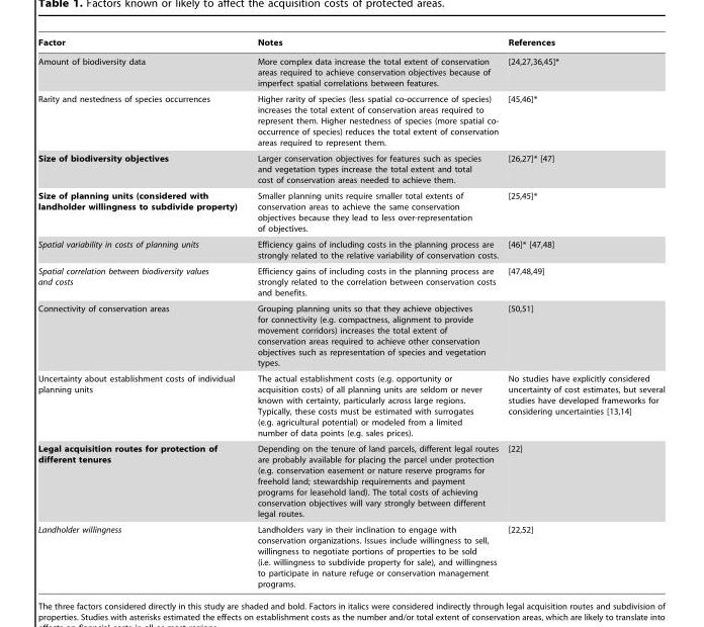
<table><thead><tr><td>Factor</td><td>Notes</td><td>References</td></tr></thead><tbody><tr><td>Amount of biodiversity data</td><td>More complex data increase the total extent of conservation areas required to achieve conservation objectives because of imperfect spatial correlations between features.</td><td>[24,27,36,45]*</td></tr><tr><td>Rarity and nestedness of species occurrences</td><td>Higher rarity of species (less spatial co-occurrence of species) increases the total extent of conservation areas required to represent them. Higher nestedness of species (more spatial co- occurrence of species) reduces the total extent of conservation areas required to represent them.</td><td>[45,46]*</td></tr><tr><td>Size of biodiversity objectives</td><td>Larger conservation objectives for features such as species and vegetation types increase the total extent and total cost of conservation areas needed to achieve them.</td><td>[26,27]* [47]</td></tr><tr><td>Size of planning units (considered with landholder willingness to subdivide property)</td><td>Smaller planning units require smaller total extents of conservation areas to achieve the same conservation objectives because they lead to less over-representation of objectives.</td><td>[25,45]*</td></tr><tr><td>Spatial variability in costs of planning units</td><td>Efficiency gains of including costs in the planning process are strongly related to the relative variability of conservation costs.</td><td>[46]* [47,48]</td></tr><tr><td>Spatial correlation between biodiversity values and costs</td><td>Efficiency gains of including costs in the planning process are strongly related to the correlation between conservation costs and benefits.</td><td>[47,48,49]</td></tr><tr><td>Connectivity of conservation areas</td><td>Grouping planning units so that they achieve objectives for connectivity (e.g. compactness, alignment to provide movement corridors) increases the total extent of conservation areas required to achieve other conservation objectives such as representation of species and vegetation types.</td><td>[50,51]</td></tr><tr><td>Uncertainty about establishment costs of individual planning units</td><td>The actual establishment costs (e.g. opportunity or acquisition costs) of all planning units are seldom or never known with certainty, particularly across large regions. Typically, these costs must be estimated with surrogates (e.g. agricultural potential) or modeled from a limited number of data points (e.g. sales prices).</td><td>No studies have explicitly considered uncertainty of cost estimates, but several studies have developed frameworks for considering uncertainties [13,14]</td></tr><tr><td>Legal acquisition routes for protection of different tenures</td><td>Depending on the tenure of land parcels, different legal routes are probably available for placing the parcel under protection (e.g. conservation easement or nature reserve programs for freehold land; stewardship requirements and payment programs for leasehold land). The total costs of achieving conservation objectives will vary strongly between different legal routes.</td><td>[22]</td></tr><tr><td>Landholder willingness</td><td>Landholders vary in their inclination to engage with conservation organizations. Issues include willingness to sell, willingness to negotiate portions of properties to be sold (i.e. willingness to subdivide property for sale), and willingness to participate in nature refuge or conservation management programs.</td><td>[22,52]</td></tr></tbody></table>